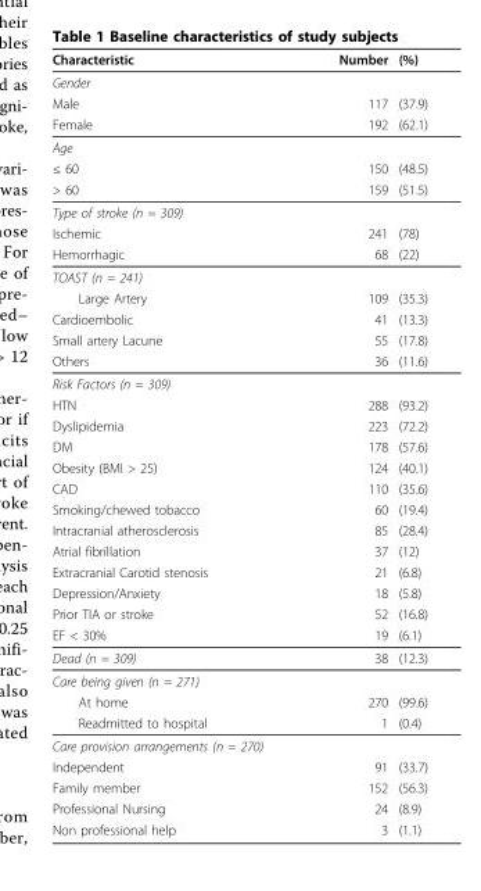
<table><thead><tr><td>Characteristic</td><td>Number</td><td>(%)</td></tr></thead><tbody><tr><td colspan="3">Gender</td></tr><tr><td>Male</td><td>117</td><td>(37.9)</td></tr><tr><td>Female</td><td>192</td><td>(62.1)</td></tr><tr><td colspan="3">Age</td></tr><tr><td>≤ 60</td><td>150</td><td>(48.5)</td></tr><tr><td>&gt; 60</td><td>159</td><td>(51.5)</td></tr><tr><td colspan="3">Type of stroke (n = 309)</td></tr><tr><td>Ischemic</td><td>241</td><td>(78)</td></tr><tr><td>Hemorrhagic</td><td>68</td><td>(22)</td></tr><tr><td colspan="3">TOAST (n = 241)</td></tr><tr><td>Large Artery</td><td>109</td><td>(35.3)</td></tr><tr><td>Cardioembolic</td><td>41</td><td>(13.3)</td></tr><tr><td>Small artery Lacune</td><td>55</td><td>(17.8)</td></tr><tr><td>Others</td><td>36</td><td>(11.6)</td></tr><tr><td colspan="3">Risk Factors (n = 309)</td></tr><tr><td>HTN</td><td>288</td><td>(93.2)</td></tr><tr><td>Dyslipidemia</td><td>223</td><td>(72.2)</td></tr><tr><td>DM</td><td>178</td><td>(57.6)</td></tr><tr><td>Obesity (BMI &gt; 25)</td><td>124</td><td>(40.1)</td></tr><tr><td>CAD</td><td>110</td><td>(35.6)</td></tr><tr><td>Smoking/chewed tobacco</td><td>60</td><td>(19.4)</td></tr><tr><td>Intracranial atherosclerosis</td><td>85</td><td>(28.4)</td></tr><tr><td>Atrial fibrillation</td><td>37</td><td>(12)</td></tr><tr><td>Extracranial Carotid stenosis</td><td>21</td><td>(6.8)</td></tr><tr><td>Depression/Anxiety</td><td>18</td><td>(5.8)</td></tr><tr><td>Prior TIA or stroke</td><td>52</td><td>(16.8)</td></tr><tr><td>EF &lt; 30%</td><td>19</td><td>(6.1)</td></tr><tr><td>Dead (n = 309)</td><td>38</td><td>(12.3)</td></tr><tr><td colspan="3">Care being given (n = 271)</td></tr><tr><td>At home</td><td>270</td><td>(99.6)</td></tr><tr><td>Readmitted to hospital</td><td>1</td><td>(0.4)</td></tr><tr><td colspan="3">Care provision arrangements (n = 270)</td></tr><tr><td>Independent</td><td>91</td><td>(33.7)</td></tr><tr><td>Family member</td><td>152</td><td>(56.3)</td></tr><tr><td>Professional Nursing</td><td>24</td><td>(8.9)</td></tr><tr><td>Non professional help</td><td>3</td><td>(1.1)</td></tr></tbody></table>